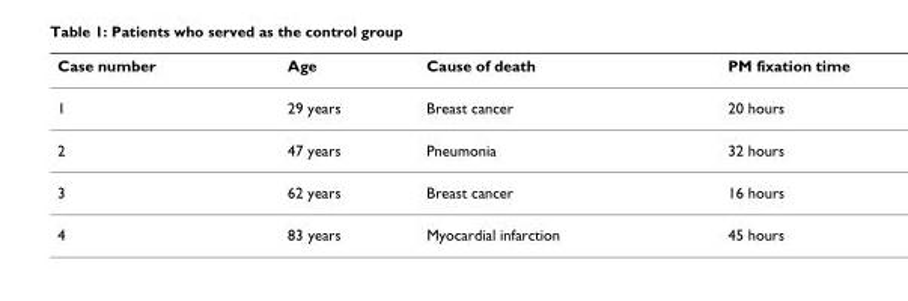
<table><thead><tr><td>Case number</td><td>Age</td><td>Cause of death</td><td>PM fixation time</td></tr></thead><tbody><tr><td>1</td><td>29 years</td><td>Breast cancer</td><td>20 hours</td></tr><tr><td>2</td><td>47 years</td><td>Pneumonia</td><td>32 hours</td></tr><tr><td>3</td><td>62 years</td><td>Breast cancer</td><td>16 hours</td></tr><tr><td>4</td><td>83 years</td><td>Myocardial infarction</td><td>45 hours</td></tr></tbody></table>